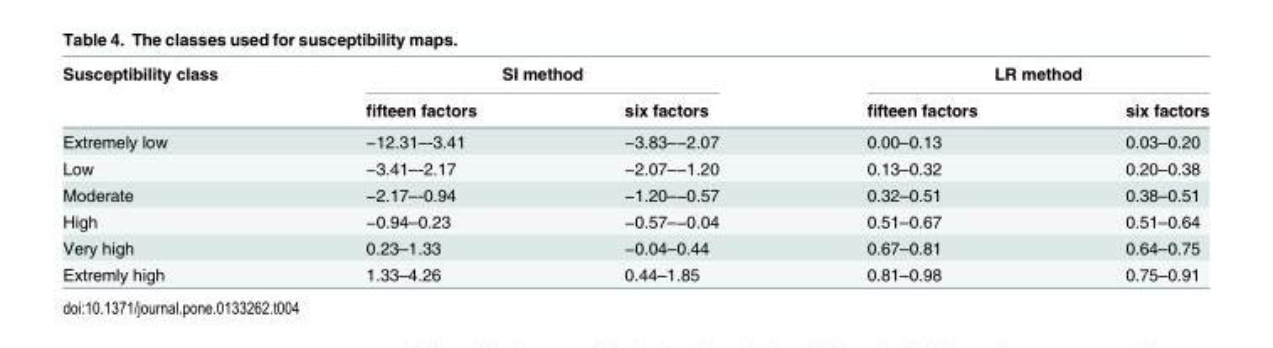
<table><thead><tr><td rowspan="2">Susceptibility class</td><td colspan="2">SI method</td><td colspan="2">LR method</td></tr><tr><td>fifteen factors</td><td>six factors</td><td>fifteen factors</td><td>six factors</td></tr></thead><tbody><tr><td>Extremely low</td><td>−12.31–-3.41</td><td>−3.83–−2.07</td><td>0.00–0.13</td><td>0.03–0.20</td></tr><tr><td>Low</td><td>−3.41–-2.17</td><td>−2.07–−1.20</td><td>0.13–0.32</td><td>0.20–0.38</td></tr><tr><td>Moderate</td><td>−2.17–-0.94</td><td>−1.20–−0.57</td><td>0.32–0.51</td><td>0.38–0.51</td></tr><tr><td>High</td><td>−0.94–0.23</td><td>−0.57–−0.04</td><td>0.51–0.67</td><td>0.51–0.64</td></tr><tr><td>Very high</td><td>0.23–1.33</td><td>−0.04–0.44</td><td>0.67–0.81</td><td>0.64–0.75</td></tr><tr><td>Extremly high</td><td>1.33–4.26</td><td>0.44–1.85</td><td>0.81–0.98</td><td>0.75–0.91</td></tr></tbody></table>